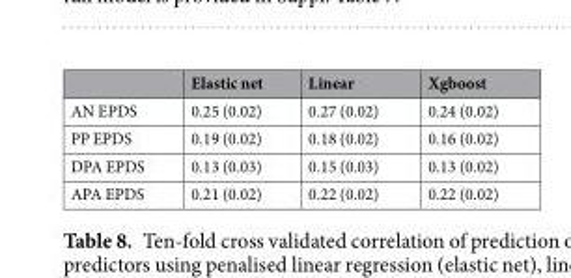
<table><thead><tr><td></td><td>Elastic net</td><td>Linear</td><td>Xgboost</td></tr></thead><tbody><tr><td>AN EPDS</td><td>0.25 (0.02)</td><td>0.27 (0.02)</td><td>0.24 (0.02)</td></tr><tr><td>PP EPDS</td><td>0.19 (0.02)</td><td>0.18 (0.02)</td><td>0.16 (0.02)</td></tr><tr><td>DPA EPDS</td><td>0.13 (0.03)</td><td>0.15 (0.03)</td><td>0.13 (0.02)</td></tr><tr><td>APA EPDS</td><td>0.21 (0.02)</td><td>0.22 (0.02)</td><td>0.22 (0.02)</td></tr></tbody></table>